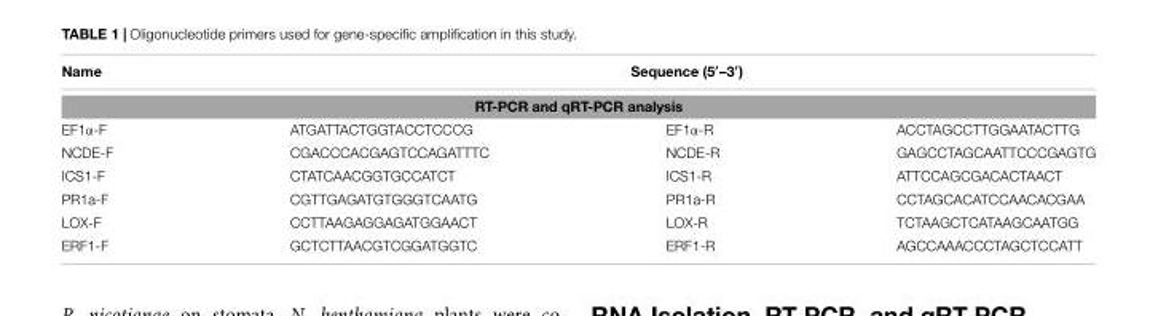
<table><thead><tr><td>Name</td><td colspan="3">Sequence (5′–3′)</td></tr><tr><td colspan="4">RT-PCR and qRT-PCR analysis</td></tr><tr><td>EF1α-F</td><td>ATGATTACTGGTACCTCCCG</td><td>EF1α-R</td><td>ACCTAGCCTTGGAATACTTG</td></tr></thead><tbody><tr><td>NCDE-F</td><td>CGACCCACGAGTCCAGATTTC</td><td>NCDE-R</td><td>GAGCCTAGCAATTCCCGAGTG</td></tr><tr><td>ICS1-F</td><td>CTATCAACGGTGCCATCT</td><td>ICS1-R</td><td>ATTCCAGCGACACTAACT</td></tr><tr><td>PR1a-F</td><td>CGTTGAGATGTGGGTCAATG</td><td>PR1a-R</td><td>CCTAGCACATCCAACACGAA</td></tr><tr><td>LOX-F</td><td>CCTTAAGAGGAGATGGAACT</td><td>LOX-R</td><td>TCTAAGCTCATAAGCAATGG</td></tr><tr><td>ERF1-F</td><td>GCTCTTAACGTCGGATGGTC</td><td>ERF1-R</td><td>AGCCAAACCCTAGCTCCATT</td></tr></tbody></table>